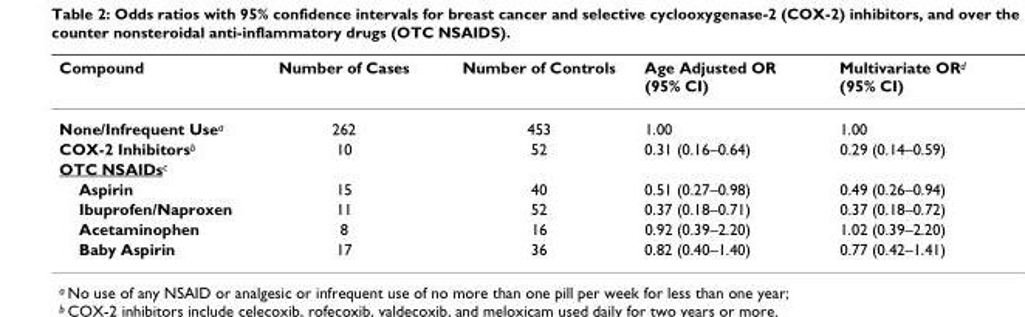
<table><thead><tr><td>Compound</td><td>Number of Cases</td><td>Number of Controls</td><td>Age Adjusted OR (95% CI)</td><td>Multivariate ORd (95% CI)</td></tr></thead><tbody><tr><td>None/Infrequent Usea</td><td>262</td><td>453</td><td>1.00</td><td>1.00</td></tr><tr><td>COX-2 Inhibitorsb</td><td>10</td><td>52</td><td>0.31 (0.16–0.64)</td><td>0.29 (0.14–0.59)</td></tr><tr><td colspan="5">OTC NSAIDsc</td></tr><tr><td>Aspirin</td><td>15</td><td>40</td><td>0.51 (0.27–0.98)</td><td>0.49 (0.26–0.94)</td></tr><tr><td>Ibuprofen/Naproxen</td><td>11</td><td>52</td><td>0.37 (0.18–0.71)</td><td>0.37 (0.18–0.72)</td></tr><tr><td>Acetaminophen</td><td>8</td><td>16</td><td>0.92 (0.39–2.20)</td><td>1.02 (0.39–2.20)</td></tr><tr><td>Baby Aspirin</td><td>17</td><td>36</td><td>0.82 (0.40–1.40)</td><td>0.77 (0.42–1.41)</td></tr></tbody></table>